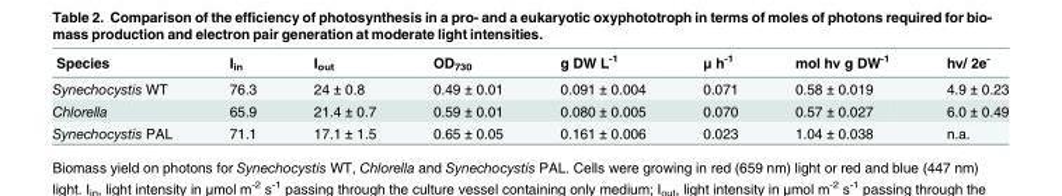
<table><thead><tr><td>Species</td><td>I<sub>in</sub></td><td>I<sub>out</sub></td><td>OD<sub>730</sub></td><td>g DW L<sup>-1</sup></td><td>μ h<sup>-1</sup></td><td>mol hν g DW<sup>-1</sup></td><td>hν/ 2e<sup>-</sup></td></tr></thead><tbody><tr><td>Synechocystis WT</td><td>76.3</td><td>24 ± 0.8</td><td>0.49 ± 0.01</td><td>0.091 ± 0.004</td><td>0.071</td><td>0.58 ± 0.019</td><td>4.9 ± 0.23</td></tr><tr><td>Chlorella</td><td>65.9</td><td>21.4 ± 0.7</td><td>0.59 ± 0.01</td><td>0.080 ± 0.005</td><td>0.070</td><td>0.57 ± 0.027</td><td>6.0 ± 0.49</td></tr><tr><td>Synechocystis PAL</td><td>71.1</td><td>17.1 ± 1.5</td><td>0.65 ± 0.05</td><td>0.161 ± 0.006</td><td>0.023</td><td>1.04 ± 0.038</td><td>n.a.</td></tr></tbody></table>